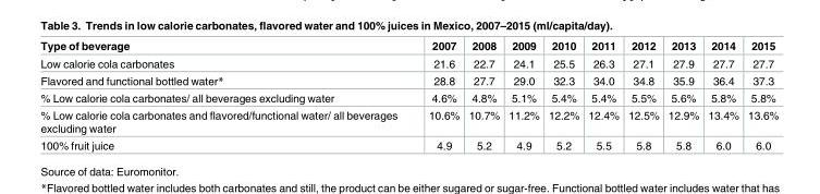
<table><thead><tr><td>Type of beverage</td><td>2007</td><td>2008</td><td>2009</td><td>2010</td><td>2011</td><td>2012</td><td>2013</td><td>2014</td><td>2015</td></tr></thead><tbody><tr><td>Low calorie cola carbonates</td><td>21.6</td><td>22.7</td><td>24.1</td><td>25.5</td><td>26.3</td><td>27.1</td><td>27.9</td><td>27.7</td><td>27.7</td></tr><tr><td>Flavored and functional bottled water*</td><td>28.8</td><td>27.7</td><td>29.0</td><td>32.3</td><td>34.0</td><td>34.8</td><td>35.9</td><td>36.4</td><td>37.3</td></tr><tr><td>% Low calorie cola carbonates/ all beverages excluding water</td><td>4.6%</td><td>4.8%</td><td>5.1%</td><td>5.4%</td><td>5.4%</td><td>5.5%</td><td>5.6%</td><td>5.8%</td><td>5.8%</td></tr><tr><td>% Low calorie cola carbonates and flavored/functional water/ all beverages excluding water</td><td>10.6%</td><td>10.7%</td><td>11.2%</td><td>12.2%</td><td>12.4%</td><td>12.5%</td><td>12.9%</td><td>13.4%</td><td>13.6%</td></tr><tr><td>100% fruit juice</td><td>4.9</td><td>5.2</td><td>4.9</td><td>5.2</td><td>5.5</td><td>5.8</td><td>5.8</td><td>6.0</td><td>6.0</td></tr></tbody></table>